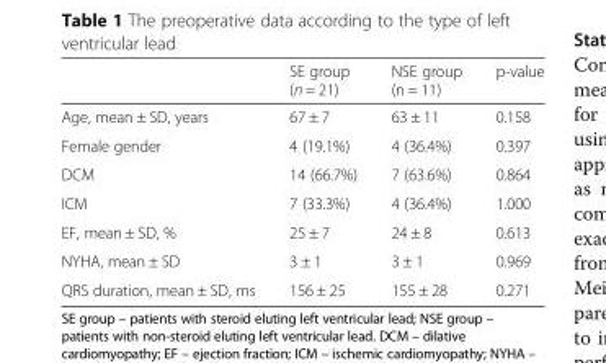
<table><thead><tr><td></td><td>SE group (n = 21)</td><td>NSE group (n = 11)</td><td>p-value</td></tr></thead><tbody><tr><td>Age, mean ± SD, years</td><td>67 ± 7</td><td>63 ± 11</td><td>0.158</td></tr><tr><td>Female gender</td><td>4 (19.1%)</td><td>4 (36.4%)</td><td>0.397</td></tr><tr><td>DCM</td><td>14 (66.7%)</td><td>7 (63.6%)</td><td>0.864</td></tr><tr><td>ICM</td><td>7 (33.3%)</td><td>4 (36.4%)</td><td>1.000</td></tr><tr><td>EF, mean ± SD, %</td><td>25 ± 7</td><td>24 ± 8</td><td>0.613</td></tr><tr><td>NYHA, mean ± SD</td><td>3 ± 1</td><td>3 ± 1</td><td>0.969</td></tr><tr><td>QRS duration, mean ± SD, ms</td><td>156 ± 25</td><td>155 ± 28</td><td>0.271</td></tr></tbody></table>